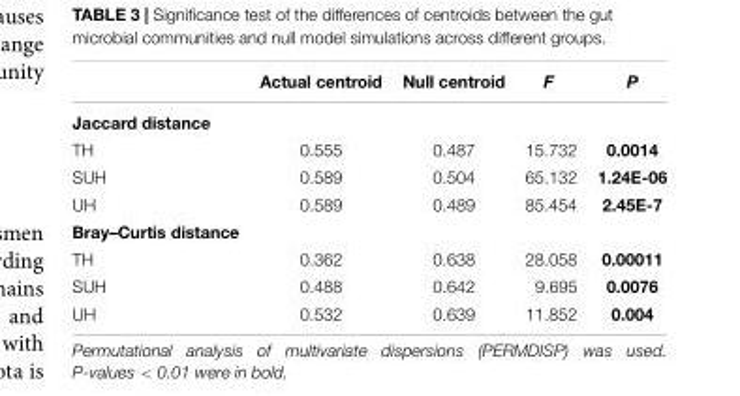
<table><thead><tr><td></td><td>Actual centroid</td><td>Null centroid</td><td>F</td><td>P</td></tr></thead><tbody><tr><td colspan="5">Jaccard distance</td></tr><tr><td>TH</td><td>0.555</td><td>0.487</td><td>15.732</td><td>0.0014</td></tr><tr><td>SUH</td><td>0.589</td><td>0.504</td><td>65.132</td><td>1.24E-06</td></tr><tr><td>UH</td><td>0.589</td><td>0.489</td><td>85.454</td><td>2.45E-7</td></tr><tr><td colspan="5">Bray–Curtis distance</td></tr><tr><td>TH</td><td>0.362</td><td>0.638</td><td>28.058</td><td>0.00011</td></tr><tr><td>SUH</td><td>0.488</td><td>0.642</td><td>9.695</td><td>0.0076</td></tr><tr><td>UH</td><td>0.532</td><td>0.639</td><td>11.852</td><td>0.004</td></tr></tbody></table>